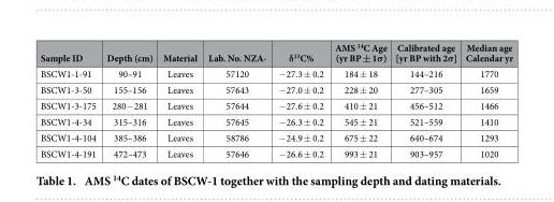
<table><thead><tr><td>Sample ID</td><td>Depth (cm)</td><td>Material</td><td>Lab. No. NZA-</td><td>δ<sup>13</sup>C%</td><td>AMS <sup>14</sup>C Age (yr BP ± 1σ)</td><td>Calibrated age [yr BP with 2σ]</td><td>Median age Calendar yr</td></tr></thead><tbody><tr><td>BSCW1-1-91</td><td>90–91</td><td>Leaves</td><td>57120</td><td>−27.3 ± 0.2</td><td>184 ± 18</td><td>144–216</td><td>1770</td></tr><tr><td>BSCW1-3-50</td><td>155–156</td><td>Leaves</td><td>57643</td><td>−27.0 ± 0.2</td><td>228 ± 20</td><td>277–305</td><td>1659</td></tr><tr><td>BSCW1-3-175</td><td>280− 281</td><td>Leaves</td><td>57644</td><td>−27.6 ± 0.2</td><td>410 ± 21</td><td>456–512</td><td>1466</td></tr><tr><td>BSCW1-4-34</td><td>315–316</td><td>Leaves</td><td>57645</td><td>−26.3 ± 0.2</td><td>545 ± 21</td><td>521–559</td><td>1410</td></tr><tr><td>BSCW1-4-104</td><td>385–386</td><td>Leaves</td><td>58786</td><td>−24.9 ± 0.2</td><td>675 ± 22</td><td>640–674</td><td>1293</td></tr><tr><td>BSCW1-4-191</td><td>472–473</td><td>Leaves</td><td>57646</td><td>−26.6 ± 0.2</td><td>993 ± 21</td><td>903–957</td><td>1020</td></tr></tbody></table>